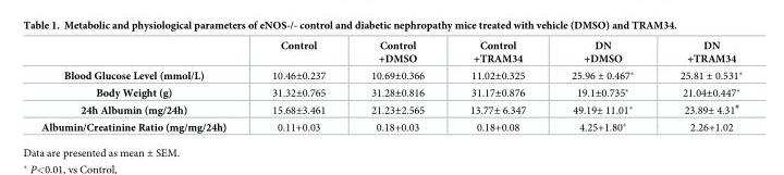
<table><thead><tr><td></td><td>Control</td><td>Control +DMSO</td><td>Control +TRAM34</td><td>DN +DMSO</td><td>DN +TRAM34</td></tr></thead><tbody><tr><td>Blood Glucose Level (mmol/L)</td><td>10.46±0.237</td><td>10.69±0.366</td><td>11.02±0.325</td><td>25.96 ± 0.467*</td><td>25.81 ± 0.531*</td></tr><tr><td>Body Weight (g)</td><td>31.32±0.765</td><td>31.28±0.816</td><td>31.17±0.876</td><td>19.1±0.735*</td><td>21.04±0.447*</td></tr><tr><td>24h Albumin (mg/24h)</td><td>15.68±3.461</td><td>21.23±2.565</td><td>13.77± 6.347</td><td>49.19± 11.01*</td><td>23.89± 4.31<sup>#</sup></td></tr><tr><td>Albumin/Creatinine Ratio (mg/mg/24h)</td><td>0.11+0.03</td><td>0.18+0.03</td><td>0.18+0.08</td><td>4.25+1.80*</td><td>2.26+1.02</td></tr></tbody></table>